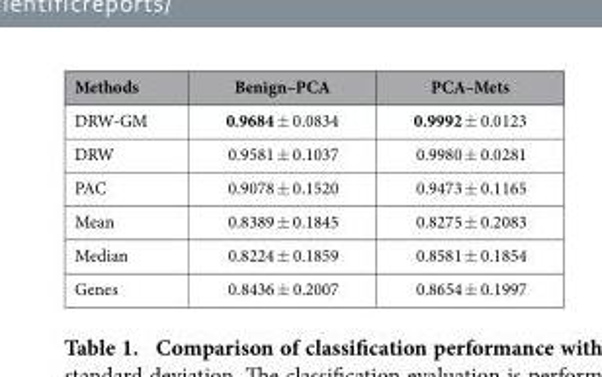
<table><thead><tr><td>Methods</td><td>Benign–PCA</td><td>PCA–Mets</td></tr></thead><tbody><tr><td>DRW-GM</td><td>0.9684 ± 0.0834</td><td>0.9992 ± 0.0123</td></tr><tr><td>DRW</td><td>0.9581 ± 0.1037</td><td>0.9980 ± 0.0281</td></tr><tr><td>PAC</td><td>0.9078 ± 0.1520</td><td>0.9473 ± 0.1165</td></tr><tr><td>Mean</td><td>0.8389 ± 0.1845</td><td>0.8275 ± 0.2083</td></tr><tr><td>Median</td><td>0.8224 ± 0.1859</td><td>0.8581 ± 0.1854</td></tr><tr><td>Genes</td><td>0.8436 ± 0.2007</td><td>0.8654 ± 0.1997</td></tr></tbody></table>